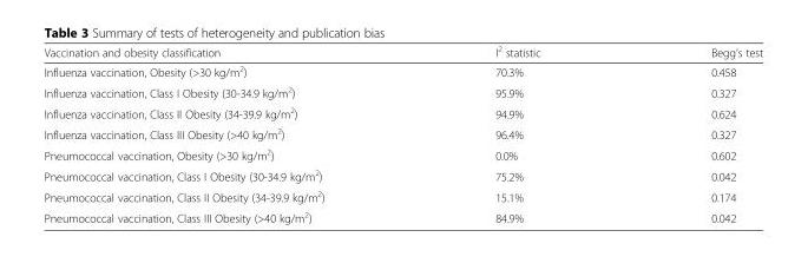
<table><thead><tr><td>Vaccination and obesity classification</td><td>I<sup>2</sup> statistic</td><td>Begg’s test</td></tr></thead><tbody><tr><td>Influenza vaccination, Obesity (&gt;30 kg/m<sup>2</sup>)</td><td>70.3%</td><td>0.458</td></tr><tr><td>Influenza vaccination, Class I Obesity (30-34.9 kg/m<sup>2</sup>)</td><td>95.9%</td><td>0.327</td></tr><tr><td>Influenza vaccination, Class II Obesity (34-39.9 kg/m<sup>2</sup>)</td><td>94.9%</td><td>0.624</td></tr><tr><td>Influenza vaccination, Class III Obesity (&gt;40 kg/m<sup>2</sup>)</td><td>96.4%</td><td>0.327</td></tr><tr><td>Pneumococcal vaccination, Obesity (&gt;30 kg/m<sup>2</sup>)</td><td>0.0%</td><td>0.602</td></tr><tr><td>Pneumococcal vaccination, Class I Obesity (30-34.9 kg/m<sup>2</sup>)</td><td>75.2%</td><td>0.042</td></tr><tr><td>Pneumococcal vaccination, Class II Obesity (34-39.9 kg/m<sup>2</sup>)</td><td>15.1%</td><td>0.174</td></tr><tr><td>Pneumococcal vaccination, Class III Obesity (&gt;40 kg/m<sup>2</sup>)</td><td>84.9%</td><td>0.042</td></tr></tbody></table>